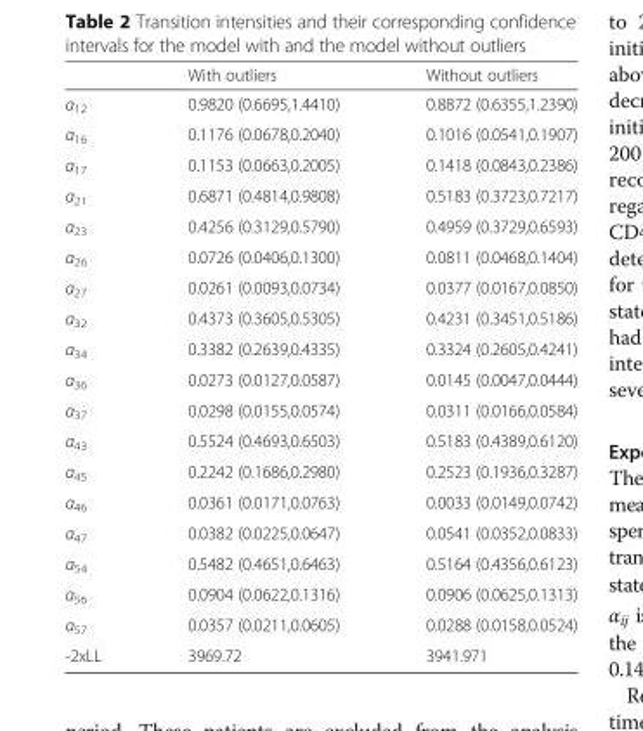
<table><thead><tr><td></td><td>With outliers</td><td>Without outliers</td></tr></thead><tbody><tr><td>α<sub>12</sub></td><td>0.9820 (0.6695,1.4410)</td><td>0.8872 (0.6355,1.2390)</td></tr><tr><td>α<sub>16</sub></td><td>0.1176 (0.0678,0.2040)</td><td>0.1016 (0.0541,0.1907)</td></tr><tr><td>α<sub>17</sub></td><td>0.1153 (0.0663,0.2005)</td><td>0.1418 (0.0843,0.2386)</td></tr><tr><td>α<sub>21</sub></td><td>0.6871 (0.4814,0.9808)</td><td>0.5183 (0.3723,0.7217)</td></tr><tr><td>α<sub>23</sub></td><td>0.4256 (0.3129,0.5790)</td><td>0.4959 (0.3729,0.6593)</td></tr><tr><td>α<sub>26</sub></td><td>0.0726 (0.0406,0.1300)</td><td>0.0811 (0.0468,0.1404)</td></tr><tr><td>α<sub>27</sub></td><td>0.0261 (0.0093,0.0734)</td><td>0.0377 (0.0167,0.0850)</td></tr><tr><td>α<sub>32</sub></td><td>0.4373 (0.3605,0.5305)</td><td>0.4231 (0.3451,0.5186)</td></tr><tr><td>α<sub>34</sub></td><td>0.3382 (0.2639,0.4335)</td><td>0.3324 (0.2605,0.4241)</td></tr><tr><td>α<sub>36</sub></td><td>0.0273 (0.0127,0.0587)</td><td>0.0145 (0.0047,0.0444)</td></tr><tr><td>α<sub>37</sub></td><td>0.0298 (0.0155,0.0574)</td><td>0.0311 (0.0166,0.0584)</td></tr><tr><td>α<sub>43</sub></td><td>0.5524 (0.4693,0.6503)</td><td>0.5183 (0.4389,0.6120)</td></tr><tr><td>α<sub>45</sub></td><td>0.2242 (0.1686,0.2980)</td><td>0.2523 (0.1936,0.3287)</td></tr><tr><td>α<sub>46</sub></td><td>0.0361 (0.0171,0.0763)</td><td>0.0033 (0.0149,0.0742)</td></tr><tr><td>α<sub>47</sub></td><td>0.0382 (0.0225,0.0647)</td><td>0.0541 (0.0352,0.0833)</td></tr><tr><td>α<sub>54</sub></td><td>0.5482 (0.4651,0.6463)</td><td>0.5164 (0.4356,0.6123)</td></tr><tr><td>α<sub>56</sub></td><td>0.0904 (0.0622,0.1316)</td><td>0.0906 (0.0625,0.1313)</td></tr><tr><td>α<sub>57</sub></td><td>0.0357 (0.0211,0.0605)</td><td>0.0288 (0.0158,0.0524)</td></tr><tr><td>-2xLL</td><td>3969.72</td><td>3941.971</td></tr></tbody></table>